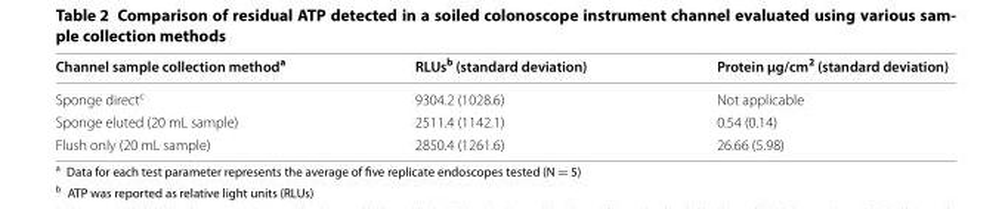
<table><thead><tr><td>Channel sample collection method<sup>a</sup></td><td>RLUs<sup>b</sup> (standard deviation)</td><td>Protein μg/cm<sup>2</sup> (standard deviation)</td></tr></thead><tbody><tr><td>Sponge direct<sup>c</sup></td><td>9304.2 (1028.6)</td><td>Not applicable</td></tr><tr><td>Sponge eluted (20 mL sample)</td><td>2511.4 (1142.1)</td><td>0.54 (0.14)</td></tr><tr><td>Flush only (20 mL sample)</td><td>2850.4 (1261.6)</td><td>26.66 (5.98)</td></tr></tbody></table>